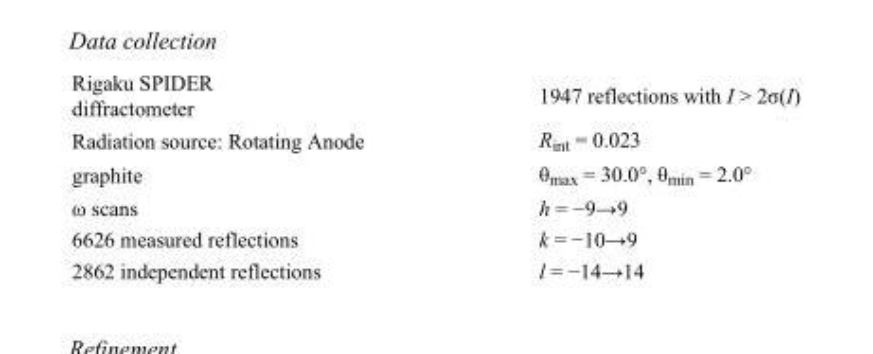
<table><tbody><tr><td>Rigaku SPIDER diffractometer</td><td>1947 reflections with I &gt; 2σ(I)</td></tr><tr><td>Radiation source: Rotating Anode</td><td>R<sub>int</sub> = 0.023</td></tr><tr><td>graphite</td><td>θ<sub>max</sub> = 30.0°, θ<sub>min</sub> = 2.0°</td></tr><tr><td>ω scans</td><td>h = −9→9</td></tr><tr><td>6626 measured reflections</td><td>k = −10→9</td></tr><tr><td>2862 independent reflections</td><td>l = −14→14</td></tr></tbody></table>